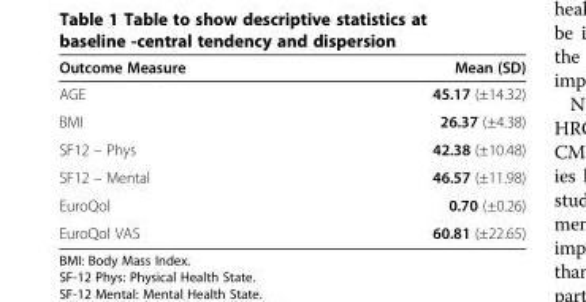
<table><thead><tr><td>Outcome Measure</td><td>Mean (SD)</td></tr></thead><tbody><tr><td>AGE</td><td>45.17 (±14.32)</td></tr><tr><td>BMI</td><td>26.37 (±4.38)</td></tr><tr><td>SF12 – Phys</td><td>42.38 (±10.48)</td></tr><tr><td>SF12 – Mental</td><td>46.57 (±11.98)</td></tr><tr><td>EuroQol</td><td>0.70 (±0.26)</td></tr><tr><td>EuroQol VAS</td><td>60.81 (±22.65)</td></tr></tbody></table>